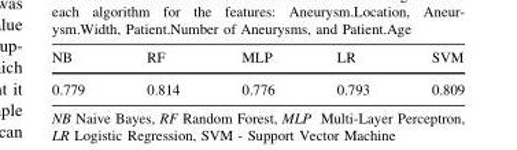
<table><thead><tr><td>NB</td><td>RF</td><td>MLP</td><td>LR</td><td>SVM</td></tr></thead><tbody><tr><td>0.779</td><td>0.814</td><td>0.776</td><td>0.793</td><td>0.809</td></tr></tbody></table>